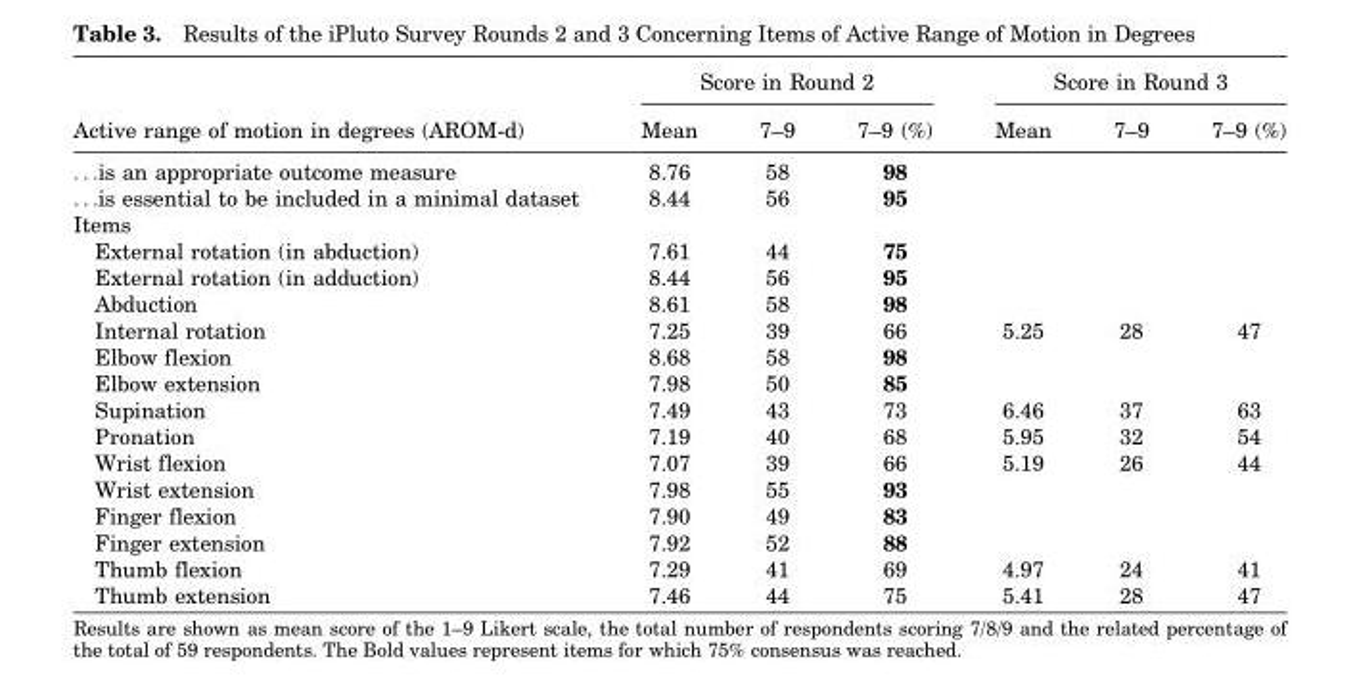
<table><thead><tr><td rowspan="2">Active range of motion in degrees (AROM-d)</td><td colspan="3">Score in Round 2</td><td colspan="3">Score in Round 3</td></tr><tr><td>Mean</td><td>7–9</td><td>7–9 (%)</td><td>Mean</td><td>7–9</td><td>7–9 (%)</td></tr></thead><tbody><tr><td>. . .is an appropriate outcome measure</td><td>8.76</td><td>58</td><td>98</td><td></td><td></td><td></td></tr><tr><td>. . .is essential to be included in a minimal dataset</td><td>8.44</td><td>56</td><td>95</td><td></td><td></td><td></td></tr><tr><td colspan="7">Items</td></tr><tr><td>External rotation (in abduction)</td><td>7.61</td><td>44</td><td>75</td><td></td><td></td><td></td></tr><tr><td>External rotation (in adduction)</td><td>8.44</td><td>56</td><td>95</td><td></td><td></td><td></td></tr><tr><td>Abduction</td><td>8.61</td><td>58</td><td>98</td><td></td><td></td><td></td></tr><tr><td>Internal rotation</td><td>7.25</td><td>39</td><td>66</td><td>5.25</td><td>28</td><td>47</td></tr><tr><td>Elbow flexion</td><td>8.68</td><td>58</td><td>98</td><td></td><td></td><td></td></tr><tr><td>Elbow extension</td><td>7.98</td><td>50</td><td>85</td><td></td><td></td><td></td></tr><tr><td>Supination</td><td>7.49</td><td>43</td><td>73</td><td>6.46</td><td>37</td><td>63</td></tr><tr><td>Pronation</td><td>7.19</td><td>40</td><td>68</td><td>5.95</td><td>32</td><td>54</td></tr><tr><td>Wrist flexion</td><td>7.07</td><td>39</td><td>66</td><td>5.19</td><td>26</td><td>44</td></tr><tr><td>Wrist extension</td><td>7.98</td><td>55</td><td>93</td><td></td><td></td><td></td></tr><tr><td>Finger flexion</td><td>7.90</td><td>49</td><td>83</td><td></td><td></td><td></td></tr><tr><td>Finger extension</td><td>7.92</td><td>52</td><td>88</td><td></td><td></td><td></td></tr><tr><td>Thumb flexion</td><td>7.29</td><td>41</td><td>69</td><td>4.97</td><td>24</td><td>41</td></tr><tr><td>Thumb extension</td><td>7.46</td><td>44</td><td>75</td><td>5.41</td><td>28</td><td>47</td></tr></tbody></table>